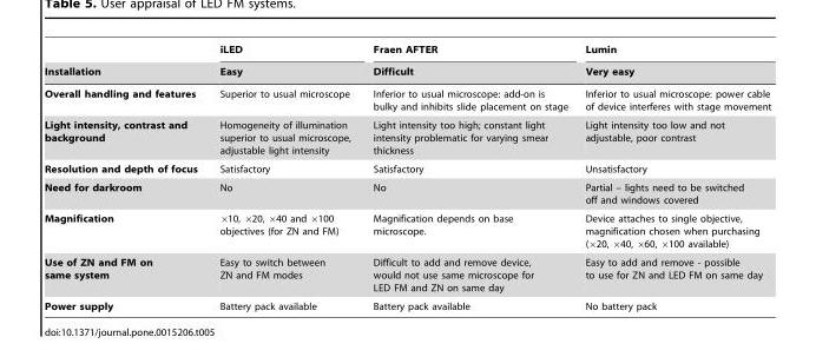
<table><thead><tr><td rowspan="2">Installation</td><td rowspan="2">iLED Easy</td><td rowspan="2">Fraen AFTER Difficult</td><td rowspan="2">Lumin Very easy</td></tr><tr></tr></thead><tbody><tr><td>Overall handling and features</td><td>Superior to usual microscope</td><td>Inferior to usual microscope: add-on is bulky and inhibits slide placement on stage</td><td>Inferior to usual microscope: power cable of device interferes with stage movement</td></tr><tr><td>Light intensity, contrast and background</td><td>Homogeneity of illumination superior to usual microscope, adjustable light intensity</td><td>Light intensity too high; constant light intensity problematic for varying smear thickness</td><td>Light intensity too low and not adjustable, poor contrast</td></tr><tr><td>Resolution and depth of focus</td><td>Satisfactory</td><td>Satisfactory</td><td>Unsatisfactory</td></tr><tr><td>Need for darkroom</td><td>No</td><td>No</td><td>Partial – lights need to be switched off and windows covered</td></tr><tr><td>Magnification</td><td>×10, ×20, ×40 and ×100 objectives (for ZN and FM)</td><td>Magnification depends on base microscope.</td><td>Device attaches to single objective, magnification chosen when purchasing (×20, ×40, ×60, ×100 available)</td></tr><tr><td>Use of ZN and FM on same system</td><td>Easy to switch between ZN and FM modes</td><td>Difficult to add and remove device, would not use same microscope for LED FM and ZN on same day</td><td>Easy to add and remove - possible to use for ZN and LED FM on same day</td></tr><tr><td>Power supply</td><td>Battery pack available</td><td>Battery pack available</td><td>No battery pack</td></tr></tbody></table>